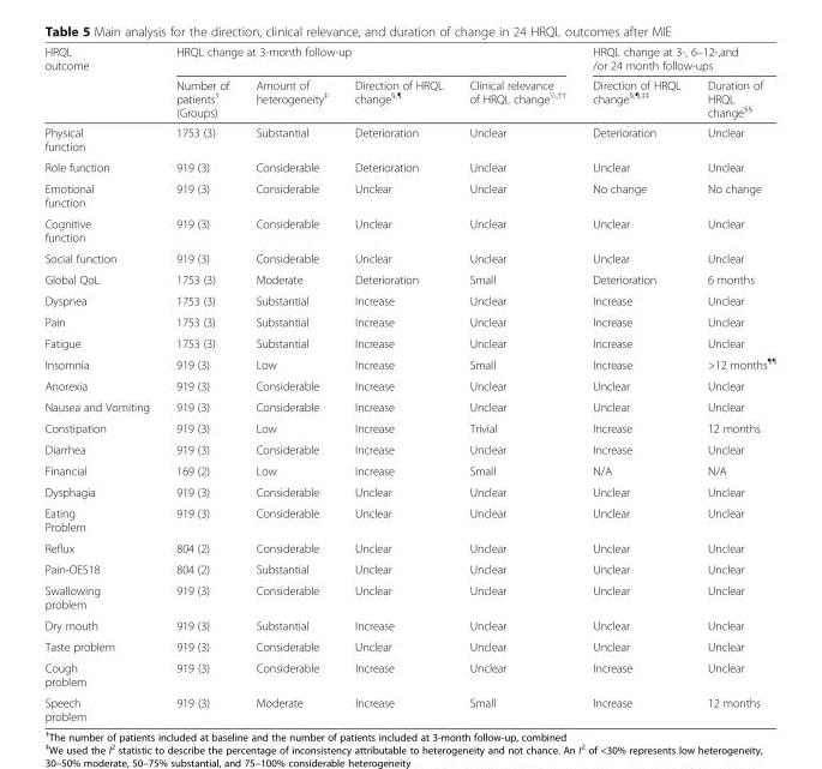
<table><thead><tr><td rowspan="2">HRQL outcome</td><td colspan="4">HRQL change at 3-month follow-up</td><td colspan="2">HRQL change at 3-, 6–12-,and /or 24 month follow-ups</td></tr><tr><td>Number of patients<sup>†</sup> (Groups)</td><td>Amount of heterogeneity<sup>‡</sup></td><td>Direction of HRQL change<sup>§,¶</sup></td><td>Clinical relevance of HRQL change<sup>\\,††</sup></td><td>Direction of HRQL change<sup>§,¶,‡‡</sup></td><td>Duration of HRQL change<sup>§§</sup></td></tr></thead><tbody><tr><td>Physical function</td><td>1753 (3)</td><td>Substantial</td><td>Deterioration</td><td>Unclear</td><td>Deterioration</td><td>Unclear</td></tr><tr><td>Role function</td><td>919 (3)</td><td>Considerable</td><td>Deterioration</td><td>Unclear</td><td>Unclear</td><td>Unclear</td></tr><tr><td>Emotional function</td><td>919 (3)</td><td>Considerable</td><td>Unclear</td><td>Unclear</td><td>No change</td><td>No change</td></tr><tr><td>Cognitive function</td><td>919 (3)</td><td>Considerable</td><td>Unclear</td><td>Unclear</td><td>Unclear</td><td>Unclear</td></tr><tr><td>Social function</td><td>919 (3)</td><td>Considerable</td><td>Unclear</td><td>Unclear</td><td>Unclear</td><td>Unclear</td></tr><tr><td>Global QoL</td><td>1753 (3)</td><td>Moderate</td><td>Deterioration</td><td>Small</td><td>Deterioration</td><td>6 months</td></tr><tr><td>Dyspnea</td><td>1753 (3)</td><td>Substantial</td><td>Increase</td><td>Unclear</td><td>Increase</td><td>Unclear</td></tr><tr><td>Pain</td><td>1753 (3)</td><td>Substantial</td><td>Increase</td><td>Unclear</td><td>Increase</td><td>Unclear</td></tr><tr><td>Fatigue</td><td>1753 (3)</td><td>Substantial</td><td>Increase</td><td>Unclear</td><td>Increase</td><td>Unclear</td></tr><tr><td>Insomnia</td><td>919 (3)</td><td>Low</td><td>Increase</td><td>Small</td><td>Increase</td><td>&gt;12 months<sup>¶¶</sup></td></tr><tr><td>Anorexia</td><td>919 (3)</td><td>Considerable</td><td>Increase</td><td>Unclear</td><td>Unclear</td><td>Unclear</td></tr><tr><td>Nausea and Vomiting</td><td>919 (3)</td><td>Considerable</td><td>Increase</td><td>Unclear</td><td>Unclear</td><td>Unclear</td></tr><tr><td>Constipation</td><td>919 (3)</td><td>Low</td><td>Increase</td><td>Trivial</td><td>Increase</td><td>12 months</td></tr><tr><td>Diarrhea</td><td>919 (3)</td><td>Considerable</td><td>Increase</td><td>Unclear</td><td>Increase</td><td>Unclear</td></tr><tr><td>Financial</td><td>169 (2)</td><td>Low</td><td>Increase</td><td>Small</td><td>N/A</td><td>N/A</td></tr><tr><td>Dysphagia</td><td>919 (3)</td><td>Considerable</td><td>Unclear</td><td>Unclear</td><td>Unclear</td><td>Unclear</td></tr><tr><td>Eating Problem</td><td>919 (3)</td><td>Considerable</td><td>Unclear</td><td>Unclear</td><td>Unclear</td><td>Unclear</td></tr><tr><td>Reflux</td><td>804 (2)</td><td>Considerable</td><td>Unclear</td><td>Unclear</td><td>Unclear</td><td>Unclear</td></tr><tr><td>Pain-OES18</td><td>804 (2)</td><td>Substantial</td><td>Unclear</td><td>Unclear</td><td>Unclear</td><td>Unclear</td></tr><tr><td>Swallowing problem</td><td>919 (3)</td><td>Considerable</td><td>Unclear</td><td>Unclear</td><td>Unclear</td><td>Unclear</td></tr><tr><td>Dry mouth</td><td>919 (3)</td><td>Substantial</td><td>Increase</td><td>Unclear</td><td>Unclear</td><td>Unclear</td></tr><tr><td>Taste problem</td><td>919 (3)</td><td>Considerable</td><td>Unclear</td><td>Unclear</td><td>Unclear</td><td>Unclear</td></tr><tr><td>Cough problem</td><td>919 (3)</td><td>Considerable</td><td>Increase</td><td>Unclear</td><td>Increase</td><td>Unclear</td></tr><tr><td>Speech problem</td><td>919 (3)</td><td>Moderate</td><td>Increase</td><td>Small</td><td>Increase</td><td>12 months</td></tr></tbody></table>